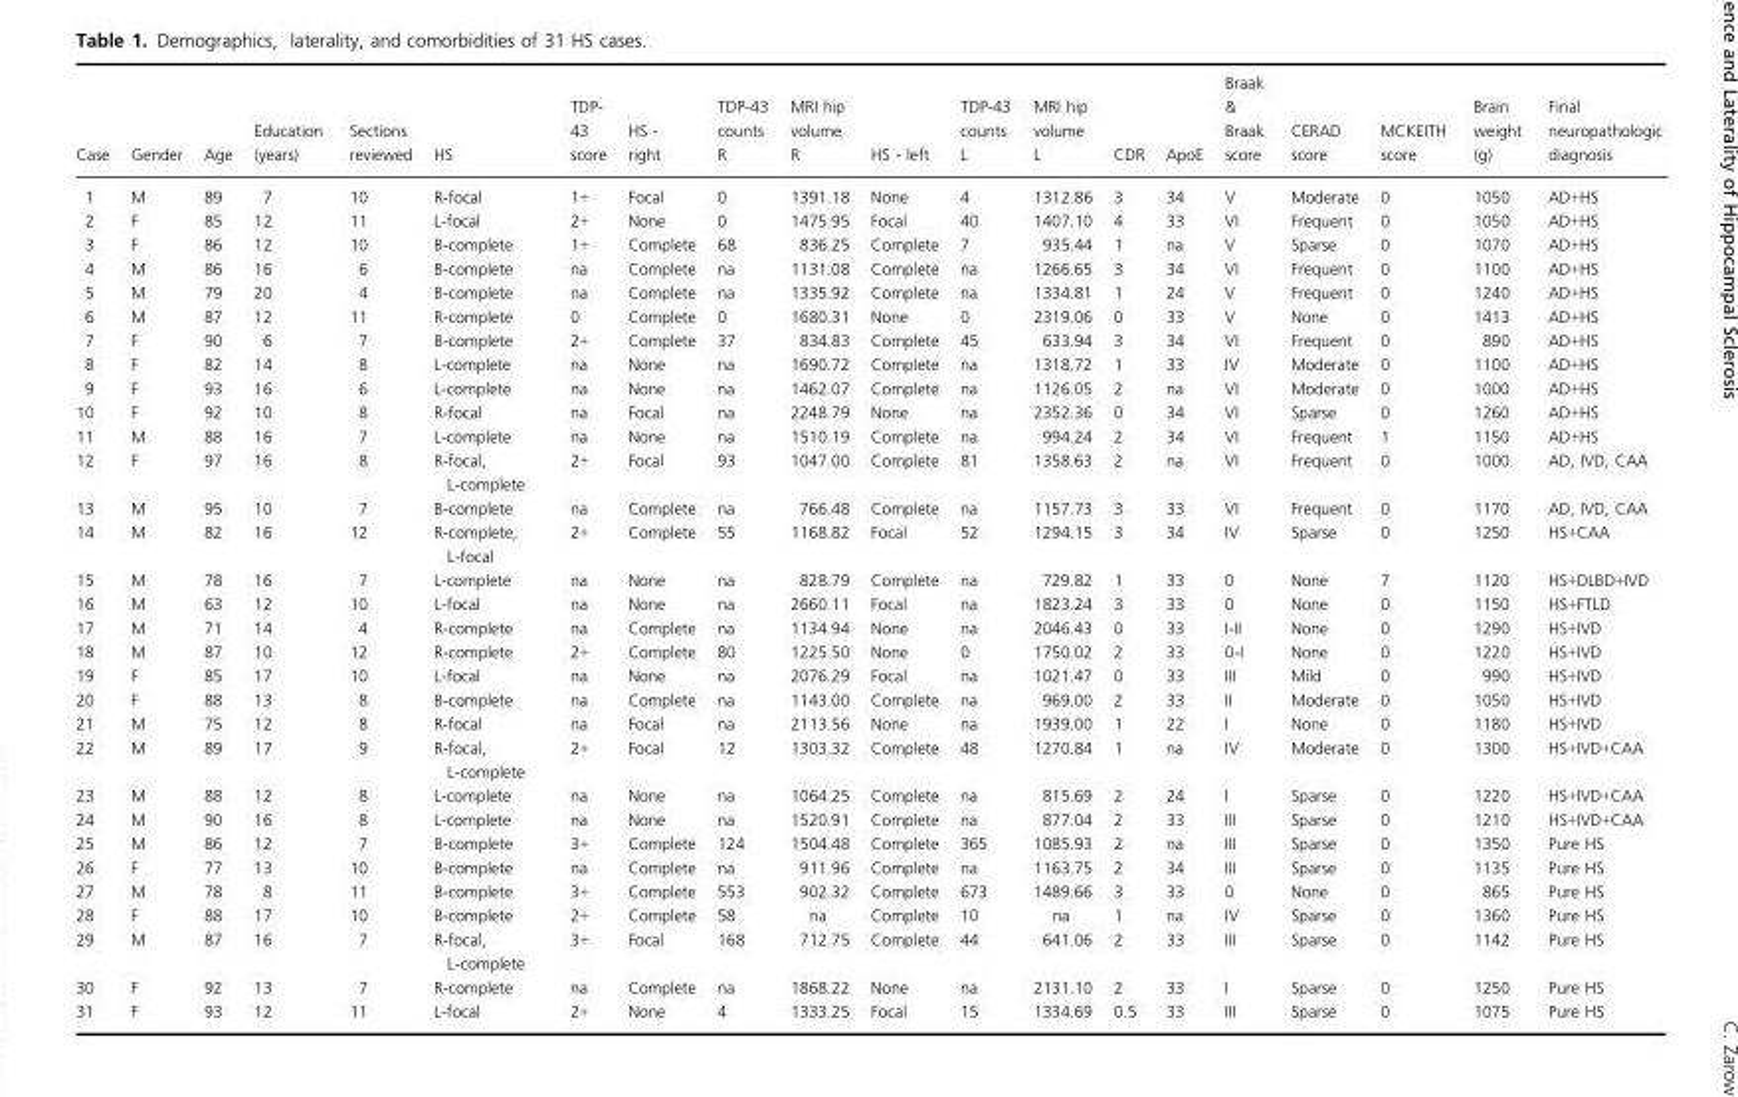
<table><thead><tr><td>Case</td><td>Gender</td><td>Age</td><td>Education (years)</td><td>Sections reviewed</td><td>HS</td><td>TDP- 43 score</td><td>HS - right</td><td>TDP-43 counts R</td><td>MRI hip volume R</td><td>HS - left</td><td>TDP-43 counts L</td><td>MRI hip volume L</td><td>CDR</td><td>ApoE</td><td>Braak &amp; Braak score</td><td>CERAD score</td><td>MCKEITH score</td><td>Brain weight (g)</td><td>Final neuropathologic diagnosis</td></tr></thead><tbody><tr><td>1</td><td>M</td><td>89</td><td>7</td><td>10</td><td>R-focal</td><td>1+</td><td>Focal</td><td>0</td><td>1391.18</td><td>None</td><td>4</td><td>1312.86</td><td>3</td><td>34</td><td>V</td><td>Moderate</td><td>0</td><td>1050</td><td>AD+HS</td></tr><tr><td>2</td><td>F</td><td>85</td><td>12</td><td>11</td><td>L-focal</td><td>2+</td><td>None</td><td>0</td><td>1475.95</td><td>Focal</td><td>40</td><td>1407.10</td><td>4</td><td>33</td><td>VI</td><td>Frequent</td><td>0</td><td>1050</td><td>AD+HS</td></tr><tr><td>3</td><td>F</td><td>86</td><td>12</td><td>10</td><td>B-complete</td><td>1+</td><td>Complete</td><td>68</td><td>836.25</td><td>Complete</td><td>7</td><td>935.44</td><td>1</td><td>na</td><td>V</td><td>Sparse</td><td>0</td><td>1070</td><td>AD+HS</td></tr><tr><td>4</td><td>M</td><td>86</td><td>16</td><td>6</td><td>B-complete</td><td>na</td><td>Complete</td><td>na</td><td>1131.08</td><td>Complete</td><td>na</td><td>1266.65</td><td>3</td><td>34</td><td>VI</td><td>Frequent</td><td>0</td><td>1100</td><td>AD+HS</td></tr><tr><td>5</td><td>M</td><td>79</td><td>20</td><td>4</td><td>B-complete</td><td>na</td><td>Complete</td><td>na</td><td>1335.92</td><td>Complete</td><td>na</td><td>1334.81</td><td>1</td><td>24</td><td>V</td><td>Frequent</td><td>0</td><td>1240</td><td>AD+HS</td></tr><tr><td>6</td><td>M</td><td>87</td><td>12</td><td>11</td><td>R-complete</td><td>0</td><td>Complete</td><td>0</td><td>1680.31</td><td>None</td><td>0</td><td>2319.06</td><td>0</td><td>33</td><td>V</td><td>None</td><td>0</td><td>1413</td><td>AD+HS</td></tr><tr><td>7</td><td>F</td><td>90</td><td>6</td><td>7</td><td>B-complete</td><td>2+</td><td>Complete</td><td>37</td><td>834.83</td><td>Complete</td><td>45</td><td>633.94</td><td>3</td><td>34</td><td>VI</td><td>Frequent</td><td>0</td><td>890</td><td>AD+HS</td></tr><tr><td>8</td><td>F</td><td>82</td><td>14</td><td>8</td><td>L-complete</td><td>na</td><td>None</td><td>na</td><td>1690.72</td><td>Complete</td><td>na</td><td>1318.72</td><td>1</td><td>33</td><td>IV</td><td>Moderate</td><td>0</td><td>1100</td><td>AD+HS</td></tr><tr><td>9</td><td>F</td><td>93</td><td>16</td><td>6</td><td>L-complete</td><td>na</td><td>None</td><td>na</td><td>1462.07</td><td>Complete</td><td>na</td><td>1126.05</td><td>2</td><td>na</td><td>VI</td><td>Moderate</td><td>0</td><td>1000</td><td>AD+HS</td></tr><tr><td>10</td><td>F</td><td>92</td><td>10</td><td>8</td><td>R-focal</td><td>na</td><td>Focal</td><td>na</td><td>2248.79</td><td>None</td><td>na</td><td>2352.36</td><td>0</td><td>34</td><td>VI</td><td>Sparse</td><td>0</td><td>1260</td><td>AD+HS</td></tr><tr><td>11</td><td>M</td><td>88</td><td>16</td><td>7</td><td>L-complete</td><td>na</td><td>None</td><td>na</td><td>1510.19</td><td>Complete</td><td>na</td><td>994.24</td><td>2</td><td>34</td><td>VI</td><td>Frequent</td><td>1</td><td>1150</td><td>AD+HS</td></tr><tr><td>12</td><td>F</td><td>97</td><td>16</td><td>8</td><td>R-focal, L-complete</td><td>2+</td><td>Focal</td><td>93</td><td>1047.00</td><td>Complete</td><td>81</td><td>1358.63</td><td>2</td><td>na</td><td>VI</td><td>Frequent</td><td>0</td><td>1000</td><td>AD, IVD, CAA</td></tr><tr><td>13</td><td>M</td><td>95</td><td>10</td><td>7</td><td>B-complete</td><td>na</td><td>Complete</td><td>na</td><td>766.48</td><td>Complete</td><td>na</td><td>1157.73</td><td>3</td><td>33</td><td>VI</td><td>Frequent</td><td>0</td><td>1170</td><td>AD, IVD, CAA</td></tr><tr><td>14</td><td>M</td><td>82</td><td>16</td><td>12</td><td>R-complete, L-focal</td><td>2+</td><td>Complete</td><td>55</td><td>1168.82</td><td>Focal</td><td>52</td><td>1294.15</td><td>3</td><td>34</td><td>IV</td><td>Sparse</td><td>0</td><td>1250</td><td>HS+CAA</td></tr><tr><td>15</td><td>M</td><td>78</td><td>16</td><td>7</td><td>L-complete</td><td>na</td><td>None</td><td>na</td><td>828.79</td><td>Complete</td><td>na</td><td>729.82</td><td>1</td><td>33</td><td>0</td><td>None</td><td>7</td><td>1120</td><td>HS+DLBD+IVD</td></tr><tr><td>16</td><td>M</td><td>63</td><td>12</td><td>10</td><td>L-focal</td><td>na</td><td>None</td><td>na</td><td>2660.11</td><td>Focal</td><td>na</td><td>1823.24</td><td>3</td><td>33</td><td>0</td><td>None</td><td>0</td><td>1150</td><td>HS+FTLD</td></tr><tr><td>17</td><td>M</td><td>71</td><td>14</td><td>4</td><td>R-complete</td><td>na</td><td>Complete</td><td>na</td><td>1134.94</td><td>None</td><td>na</td><td>2046.43</td><td>0</td><td>33</td><td>I-II</td><td>None</td><td>0</td><td>1290</td><td>HS+IVD</td></tr><tr><td>18</td><td>M</td><td>87</td><td>10</td><td>12</td><td>R-complete</td><td>2+</td><td>Complete</td><td>80</td><td>1225.50</td><td>None</td><td>0</td><td>1750.02</td><td>2</td><td>33</td><td>0-I</td><td>None</td><td>0</td><td>1220</td><td>HS+IVD</td></tr><tr><td>19</td><td>F</td><td>85</td><td>17</td><td>10</td><td>L-focal</td><td>na</td><td>None</td><td>na</td><td>2076.29</td><td>Focal</td><td>na</td><td>1021.47</td><td>0</td><td>33</td><td>III</td><td>Mild</td><td>0</td><td>990</td><td>HS+IVD</td></tr><tr><td>20</td><td>F</td><td>88</td><td>13</td><td>8</td><td>B-complete</td><td>na</td><td>Complete</td><td>na</td><td>1143.00</td><td>Complete</td><td>na</td><td>969.00</td><td>2</td><td>33</td><td>II</td><td>Moderate</td><td>0</td><td>1050</td><td>HS+IVD</td></tr><tr><td>21</td><td>M</td><td>75</td><td>12</td><td>8</td><td>R-focal</td><td>na</td><td>Focal</td><td>na</td><td>2113.56</td><td>None</td><td>na</td><td>1939.00</td><td>1</td><td>22</td><td>I</td><td>None</td><td>0</td><td>1180</td><td>HS+IVD</td></tr><tr><td>22</td><td>M</td><td>89</td><td>17</td><td>9</td><td>R-focal, L-complete</td><td>2+</td><td>Focal</td><td>12</td><td>1303.32</td><td>Complete</td><td>48</td><td>1270.84</td><td>1</td><td>na</td><td>IV</td><td>Moderate</td><td>0</td><td>1300</td><td>HS+IVD+CAA</td></tr><tr><td>23</td><td>M</td><td>88</td><td>12</td><td>8</td><td>L-complete</td><td>na</td><td>None</td><td>na</td><td>1064.25</td><td>Complete</td><td>na</td><td>815.69</td><td>2</td><td>24</td><td>I</td><td>Sparse</td><td>0</td><td>1220</td><td>HS+IVD+CAA</td></tr><tr><td>24</td><td>M</td><td>90</td><td>16</td><td>8</td><td>L-complete</td><td>na</td><td>None</td><td>na</td><td>1520.91</td><td>Complete</td><td>na</td><td>877.04</td><td>2</td><td>33</td><td>III</td><td>Sparse</td><td>0</td><td>1210</td><td>HS+IVD+CAA</td></tr><tr><td>25</td><td>M</td><td>86</td><td>12</td><td>7</td><td>B-complete</td><td>3+</td><td>Complete</td><td>124</td><td>1504.48</td><td>Complete</td><td>365</td><td>1085.93</td><td>2</td><td>na</td><td>III</td><td>Sparse</td><td>0</td><td>1350</td><td>Pure HS</td></tr><tr><td>26</td><td>F</td><td>77</td><td>13</td><td>10</td><td>B-complete</td><td>na</td><td>Complete</td><td>na</td><td>911.96</td><td>Complete</td><td>na</td><td>1163.75</td><td>2</td><td>34</td><td>III</td><td>Sparse</td><td>0</td><td>1135</td><td>Pure HS</td></tr><tr><td>27</td><td>M</td><td>78</td><td>8</td><td>11</td><td>B-complete</td><td>3+</td><td>Complete</td><td>553</td><td>902.32</td><td>Complete</td><td>673</td><td>1489.66</td><td>3</td><td>33</td><td>0</td><td>None</td><td>0</td><td>865</td><td>Pure HS</td></tr><tr><td>28</td><td>F</td><td>88</td><td>17</td><td>10</td><td>B-complete</td><td>2+</td><td>Complete</td><td>58</td><td>na</td><td>Complete</td><td>10</td><td>na</td><td>1</td><td>na</td><td>IV</td><td>Sparse</td><td>0</td><td>1360</td><td>Pure HS</td></tr><tr><td>29</td><td>M</td><td>87</td><td>16</td><td>7</td><td>R-focal, L-complete</td><td>3+</td><td>Focal</td><td>168</td><td>712.75</td><td>Complete</td><td>44</td><td>641.06</td><td>2</td><td>33</td><td>III</td><td>Sparse</td><td>0</td><td>1142</td><td>Pure HS</td></tr><tr><td>30</td><td>F</td><td>92</td><td>13</td><td>7</td><td>R-complete</td><td>na</td><td>Complete</td><td>na</td><td>1868.22</td><td>None</td><td>na</td><td>2131.10</td><td>2</td><td>33</td><td>I</td><td>Sparse</td><td>0</td><td>1250</td><td>Pure HS</td></tr><tr><td>31</td><td>F</td><td>93</td><td>12</td><td>11</td><td>L-focal</td><td>2+</td><td>None</td><td>4</td><td>1333.25</td><td>Focal</td><td>15</td><td>1334.69</td><td>0.5</td><td>33</td><td>III</td><td>Sparse</td><td>0</td><td>1075</td><td>Pure HS</td></tr></tbody></table>